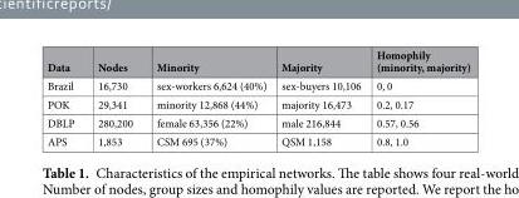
<table><thead><tr><td>Data</td><td>Nodes</td><td>Minority</td><td>Majority</td><td>Homophily (minority, majority)</td></tr></thead><tbody><tr><td>Brazil</td><td>16,730</td><td>sex-workers 6,624 (40%)</td><td>sex-buyers 10,106</td><td>0, 0</td></tr><tr><td>POK</td><td>29,341</td><td>minority 12,868 (44%)</td><td>majority 16,473</td><td>0.2, 0.17</td></tr><tr><td>DBLP</td><td>280,200</td><td>female 63,356 (22%)</td><td>male 216,844</td><td>0.57, 0.56</td></tr><tr><td>APS</td><td>1,853</td><td>CSM 695 (37%)</td><td>QSM 1,158</td><td>0.8, 1.0</td></tr></tbody></table>